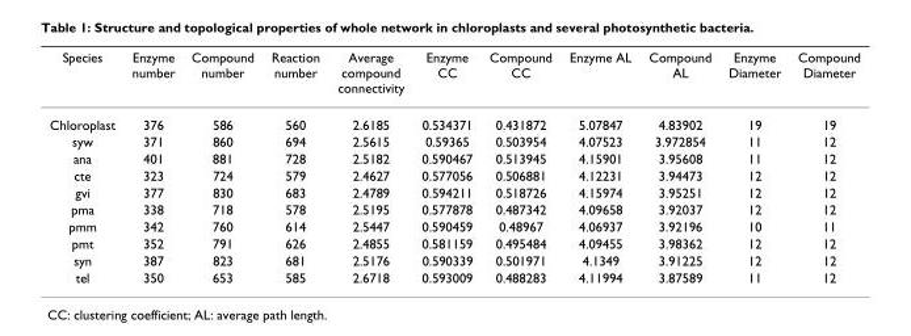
<table><thead><tr><td>Species</td><td>Enzyme number</td><td>Compound number</td><td>Reaction number</td><td>Average compound connectivity</td><td>Enzyme CC</td><td>Compound CC</td><td>Enzyme AL</td><td>Compound AL</td><td>Enzyme Diameter</td><td>Compound Diameter</td></tr></thead><tbody><tr><td>Chloroplast</td><td>376</td><td>586</td><td>560</td><td>2.6185</td><td>0.534371</td><td>0.431872</td><td>5.07847</td><td>4.83902</td><td>19</td><td>19</td></tr><tr><td>syw</td><td>371</td><td>860</td><td>694</td><td>2.5615</td><td>0.59365</td><td>0.503954</td><td>4.07523</td><td>3.972854</td><td>11</td><td>12</td></tr><tr><td>ana</td><td>401</td><td>881</td><td>728</td><td>2.5182</td><td>0.590467</td><td>0.513945</td><td>4.15901</td><td>3.95608</td><td>11</td><td>12</td></tr><tr><td>cte</td><td>323</td><td>724</td><td>579</td><td>2.4627</td><td>0.577056</td><td>0.506881</td><td>4.12231</td><td>3.94473</td><td>12</td><td>12</td></tr><tr><td>gvi</td><td>377</td><td>830</td><td>683</td><td>2.4789</td><td>0.594211</td><td>0.518726</td><td>4.15974</td><td>3.95251</td><td>12</td><td>12</td></tr><tr><td>pma</td><td>338</td><td>718</td><td>578</td><td>2.5195</td><td>0.577878</td><td>0.487342</td><td>4.09658</td><td>3.92037</td><td>12</td><td>12</td></tr><tr><td>pmm</td><td>342</td><td>760</td><td>614</td><td>2.5447</td><td>0.590459</td><td>0.48967</td><td>4.06937</td><td>3.92196</td><td>10</td><td>11</td></tr><tr><td>pmt</td><td>352</td><td>791</td><td>626</td><td>2.4855</td><td>0.581159</td><td>0.495484</td><td>4.09455</td><td>3.98362</td><td>12</td><td>12</td></tr><tr><td>syn</td><td>387</td><td>823</td><td>681</td><td>2.5176</td><td>0.590339</td><td>0.501971</td><td>4.1349</td><td>3.91225</td><td>12</td><td>12</td></tr><tr><td>tel</td><td>350</td><td>653</td><td>585</td><td>2.6718</td><td>0.593009</td><td>0.488283</td><td>4.11994</td><td>3.87589</td><td>11</td><td>12</td></tr></tbody></table>